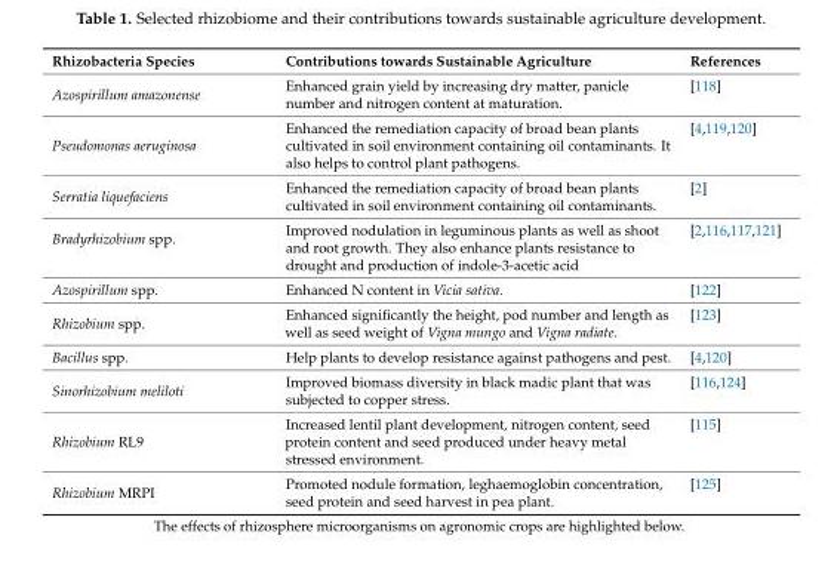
<table><thead><tr><td>Rhizobacteria Species</td><td>Contributions towards Sustainable Agriculture</td><td>References</td></tr></thead><tbody><tr><td>Azospirillum amazonense</td><td>Enhanced grain yield by increasing dry matter, panicle number and nitrogen content at maturation.</td><td>[118]</td></tr><tr><td>Pseudomonas aeruginosa</td><td>Enhanced the remediation capacity of broad bean plants cultivated in soil environment containing oil contaminants. It also helps to control plant pathogens.</td><td>[4,119,120]</td></tr><tr><td>Serratia liquefaciens</td><td>Enhanced the remediation capacity of broad bean plants cultivated in soil environment containing oil contaminants.</td><td>[2]</td></tr><tr><td>Bradyrhizobium spp.</td><td>Improved nodulation in leguminous plants as well as shoot and root growth. They also enhance plants resistance to drought and production of indole-3-acetic acid</td><td>[2,116,117,121]</td></tr><tr><td>Azospirillum spp.</td><td>Enhanced N content in Vicia sativa.</td><td>[122]</td></tr><tr><td>Rhizobium spp.</td><td>Enhanced significantly the height, pod number and length as well as seed weight of Vigna mungo and Vigna radiate.</td><td>[123]</td></tr><tr><td>Bacillus spp.</td><td>Help plants to develop resistance against pathogens and pest.</td><td>[4,120]</td></tr><tr><td>Sinorhizobium meliloti</td><td>Improved biomass diversity in black madic plant that was subjected to copper stress.</td><td>[116,124]</td></tr><tr><td>Rhizobium RL9</td><td>Increased lentil plant development, nitrogen content, seed protein content and seed produced under heavy metal stressed environment.</td><td>[115]</td></tr><tr><td>Rhizobium MRPI</td><td>Promoted nodule formation, leghaemoglobin concentration, seed protein and seed harvest in pea plant.</td><td>[125]</td></tr></tbody></table>